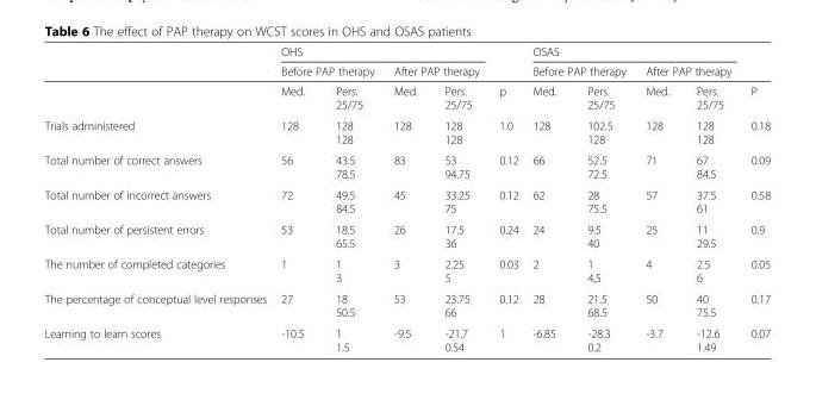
<table><thead><tr><td rowspan="3"></td><td colspan="4">OHS</td><td rowspan="3">p</td><td colspan="4">OSAS</td><td rowspan="3">P</td></tr><tr><td colspan="2">Before PAP therapy</td><td colspan="2">After PAP therapy</td><td colspan="2">Before PAP therapy</td><td colspan="2">After PAP therapy</td></tr><tr><td>Med.</td><td>Pers. 25/75</td><td>Med.</td><td>Pers. 25/75</td><td>Med.</td><td>Pers. 25/75</td><td>Med.</td><td>Pers. 25/75</td></tr></thead><tbody><tr><td>Trials administered</td><td>128</td><td>128 128</td><td>128</td><td>128 128</td><td>1.0</td><td>128</td><td>102.5 128</td><td>128</td><td>128 128</td><td>0.18</td></tr><tr><td>Total number of correct answers</td><td>56</td><td>43.5 78.5</td><td>83</td><td>53 94.75</td><td>0.12</td><td>66</td><td>52.5 72.5</td><td>71</td><td>67 84.5</td><td>0.09</td></tr><tr><td>Total number of incorrect answers</td><td>72</td><td>49.5 84.5</td><td>45</td><td>33.25 75</td><td>0.12</td><td>62</td><td>28 75.5</td><td>57</td><td>37.5 61</td><td>0.58</td></tr><tr><td>Total number of persistent errors</td><td>53</td><td>18.5 65.5</td><td>26</td><td>17.5 36</td><td>0.24</td><td>24</td><td>9.5 40</td><td>25</td><td>11 29.5</td><td>0.9</td></tr><tr><td>The number of completed categories</td><td>1</td><td>1 3</td><td>3</td><td>2.25 5</td><td>0.03</td><td>2</td><td>1 4,5</td><td>4</td><td>2.5 6</td><td>0.05</td></tr><tr><td>The percentage of conceptual level responses</td><td>27</td><td>18 50.5</td><td>53</td><td>23.75 66</td><td>0.12</td><td>28</td><td>21.5 68.5</td><td>50</td><td>40 75.5</td><td>0.17</td></tr><tr><td>Learning to learn scores</td><td>-10.5</td><td>1 1.5</td><td>-9.5</td><td>-21.7 0.54</td><td>1</td><td>-6.85</td><td>-28.3 0.2</td><td>-3.7</td><td>-12.6 1.49</td><td>0.07</td></tr></tbody></table>